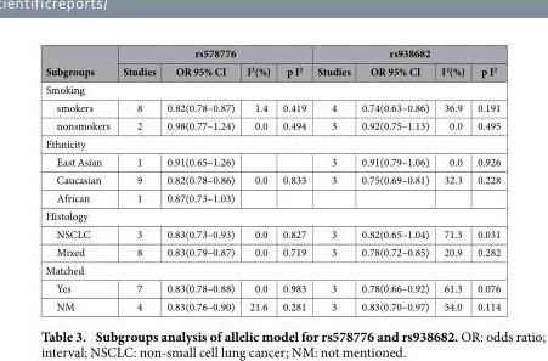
<table><thead><tr><td rowspan="2">Subgroups</td><td colspan="4">rs578776</td><td colspan="4">rs938682</td></tr><tr><td>Studies</td><td>OR 95% CI</td><td>I<sup>2</sup>(%)</td><td>p I<sup>2</sup></td><td>Studies</td><td>OR 95% CI</td><td>I<sup>2</sup>(%)</td><td>p I<sup>2</sup></td></tr></thead><tbody><tr><td colspan="9">Smoking</td></tr><tr><td>smokers</td><td>8</td><td>0.82(0.78–0.87)</td><td>1.4</td><td>0.419</td><td>4</td><td>0.74(0.63–0.86)</td><td>36.9</td><td>0.191</td></tr><tr><td>nonsmokers</td><td>2</td><td>0.98(0.77–1.24)</td><td>0.0</td><td>0.494</td><td>3</td><td>0.92(0.75–1.13)</td><td>0.0</td><td>0.495</td></tr><tr><td colspan="9">Ethnicity</td></tr><tr><td>East Asian</td><td>1</td><td>0.91(0.65–1.26)</td><td></td><td></td><td>3</td><td>0.91(0.79–1.06)</td><td>0.0</td><td>0.926</td></tr><tr><td>Caucasian</td><td>9</td><td>0.82(0.78–0.86)</td><td>0.0</td><td>0.833</td><td>3</td><td>0.75(0.69–0.81)</td><td>32.3</td><td>0.228</td></tr><tr><td>African</td><td>1</td><td>0.87(0.73–1.03)</td><td></td><td></td><td></td><td></td><td></td><td></td></tr><tr><td colspan="9">Histology</td></tr><tr><td>NSCLC</td><td>3</td><td>0.83(0.73–0.93)</td><td>0.0</td><td>0.827</td><td>3</td><td>0.82(0.65–1.04)</td><td>71.3</td><td>0.031</td></tr><tr><td>Mixed</td><td>8</td><td>0.83(0.79–0.87)</td><td>0.0</td><td>0.719</td><td>3</td><td>0.78(0.72–0.85)</td><td>20.9</td><td>0.282</td></tr><tr><td colspan="9">Matched</td></tr><tr><td>Yes</td><td>7</td><td>0.83(0.78–0.88)</td><td>0.0</td><td>0.983</td><td>3</td><td>0.78(0.66–0.92)</td><td>61.3</td><td>0.076</td></tr><tr><td>NM</td><td>4</td><td>0.83(0.76–0.90)</td><td>21.6</td><td>0.281</td><td>3</td><td>0.83(0.70–0.97)</td><td>54.0</td><td>0.114</td></tr></tbody></table>